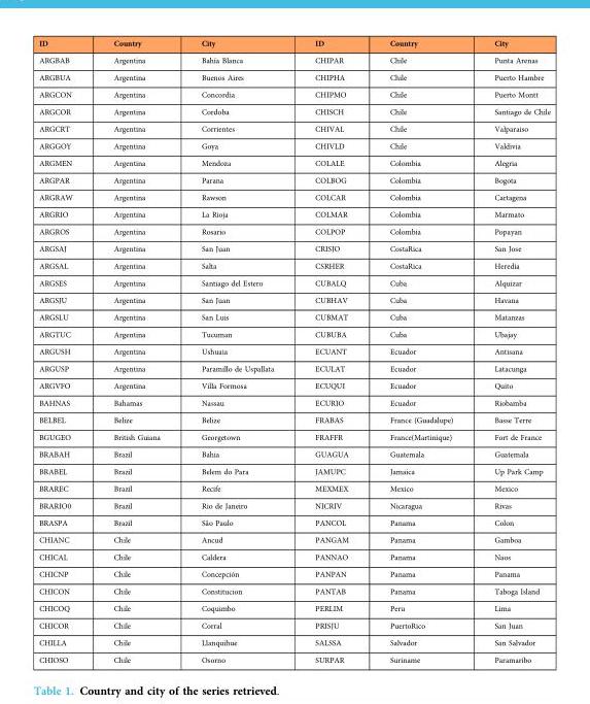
<table><thead><tr><td>ID</td><td>Country</td><td>City</td><td>ID</td><td>Country</td><td>City</td></tr></thead><tbody><tr><td>ARGBAB</td><td>Argentina</td><td>Bahía Blanca</td><td>CHIPAR</td><td>Chile</td><td>Punta Arenas</td></tr><tr><td>ARGBUA</td><td>Argentina</td><td>Buenos Aires</td><td>CHIPHA</td><td>Chile</td><td>Puerto Hambre</td></tr><tr><td>ARGCON</td><td>Argentina</td><td>Concordia</td><td>CHIPMO</td><td>Chile</td><td>Puerto Montt</td></tr><tr><td>ARGCOR</td><td>Argentina</td><td>Cordoba</td><td>CHISCH</td><td>Chile</td><td>Santiago de Chile</td></tr><tr><td>ARGCRT</td><td>Argentina</td><td>Corrientes</td><td>CHIVAL</td><td>Chile</td><td>Valparaiso</td></tr><tr><td>ARGGOY</td><td>Argentina</td><td>Goya</td><td>CHIVLD</td><td>Chile</td><td>Valdivia</td></tr><tr><td>ARGMEN</td><td>Argentina</td><td>Mendoza</td><td>COLALE</td><td>Colombia</td><td>Alegria</td></tr><tr><td>ARGPAR</td><td>Argentina</td><td>Parana</td><td>COLBOG</td><td>Colombia</td><td>Bogota</td></tr><tr><td>ARGRAW</td><td>Argentina</td><td>Rawson</td><td>COLCAR</td><td>Colombia</td><td>Cartagena</td></tr><tr><td>ARGRIO</td><td>Argentina</td><td>La Rioja</td><td>COLMAR</td><td>Colombia</td><td>Marmato</td></tr><tr><td>ARGROS</td><td>Argentina</td><td>Rosario</td><td>COLPOP</td><td>Colombia</td><td>Popayan</td></tr><tr><td>ARGSAJ</td><td>Argentina</td><td>San Juan</td><td>CRISJO</td><td>CostaRica</td><td>San Jose</td></tr><tr><td>ARGSAL</td><td>Argentina</td><td>Salta</td><td>CSRHER</td><td>CostaRica</td><td>Heredia</td></tr><tr><td>ARGSES</td><td>Argentina</td><td>Santiago del Estero</td><td>CUBALQ</td><td>Cuba</td><td>Alquizar</td></tr><tr><td>ARGSJU</td><td>Argentina</td><td>San Juan</td><td>CUBHAV</td><td>Cuba</td><td>Havana</td></tr><tr><td>ARGSLU</td><td>Argentina</td><td>San Luis</td><td>CUBMAT</td><td>Cuba</td><td>Matanzas</td></tr><tr><td>ARGTUC</td><td>Argentina</td><td>Tucuman</td><td>CUBUBA</td><td>Cuba</td><td>Ubajay</td></tr><tr><td>ARGUSH</td><td>Argentina</td><td>Ushuaia</td><td>ECUANT</td><td>Ecuador</td><td>Antisana</td></tr><tr><td>ARGUSP</td><td>Argentina</td><td>Paramillo de Uspallata</td><td>ECULAT</td><td>Ecuador</td><td>Latacunga</td></tr><tr><td>ARGVFO</td><td>Argentina</td><td>Villa Formosa</td><td>ECUQUI</td><td>Ecuador</td><td>Quito</td></tr><tr><td>BAHNAS</td><td>Bahamas</td><td>Nassau</td><td>ECURIO</td><td>Ecuador</td><td>Riobamba</td></tr><tr><td>BELBEL</td><td>Belize</td><td>Belize</td><td>FRABAS</td><td>France (Guadalupe)</td><td>Basse Terre</td></tr><tr><td>BGUGEO</td><td>British Guiana</td><td>Georgetown</td><td>FRAFFR</td><td>France(Martinique)</td><td>Fort de France</td></tr><tr><td>BRABAH</td><td>Brazil</td><td>Bahia</td><td>GUAGUA</td><td>Guatemala</td><td>Guatemala</td></tr><tr><td>BRABEL</td><td>Brazil</td><td>Belem do Para</td><td>JAMUPC</td><td>Jamaica</td><td>Up Park Camp</td></tr><tr><td>BRAREC</td><td>Brazil</td><td>Recife</td><td>MEXMEX</td><td>Mexico</td><td>Mexico</td></tr><tr><td>BRARIO0</td><td>Brazil</td><td>Rio de Janeiro</td><td>NICRIV</td><td>Nicaragua</td><td>Rivas</td></tr><tr><td>BRASPA</td><td>Brazil</td><td>São Paulo</td><td>PANCOL</td><td>Panama</td><td>Colon</td></tr><tr><td>CHIANC</td><td>Chile</td><td>Ancud</td><td>PANGAM</td><td>Panama</td><td>Gamboa</td></tr><tr><td>CHICAL</td><td>Chile</td><td>Caldera</td><td>PANNAO</td><td>Panama</td><td>Naos</td></tr><tr><td>CHICNP</td><td>Chile</td><td>Concepción</td><td>PANPAN</td><td>Panama</td><td>Panama</td></tr><tr><td>CHICON</td><td>Chile</td><td>Constitucion</td><td>PANTAB</td><td>Panama</td><td>Taboga Island</td></tr><tr><td>CHICOQ</td><td>Chile</td><td>Coquimbo</td><td>PERLIM</td><td>Peru</td><td>Lima</td></tr><tr><td>CHICOR</td><td>Chile</td><td>Corral</td><td>PRISJU</td><td>PuertoRico</td><td>San Juan</td></tr><tr><td>CHILLA</td><td>Chile</td><td>Llanquihue</td><td>SALSSA</td><td>Salvador</td><td>San Salvador</td></tr><tr><td>CHIOSO</td><td>Chile</td><td>Osorno</td><td>SURPAR</td><td>Suriname</td><td>Paramaribo</td></tr></tbody></table>